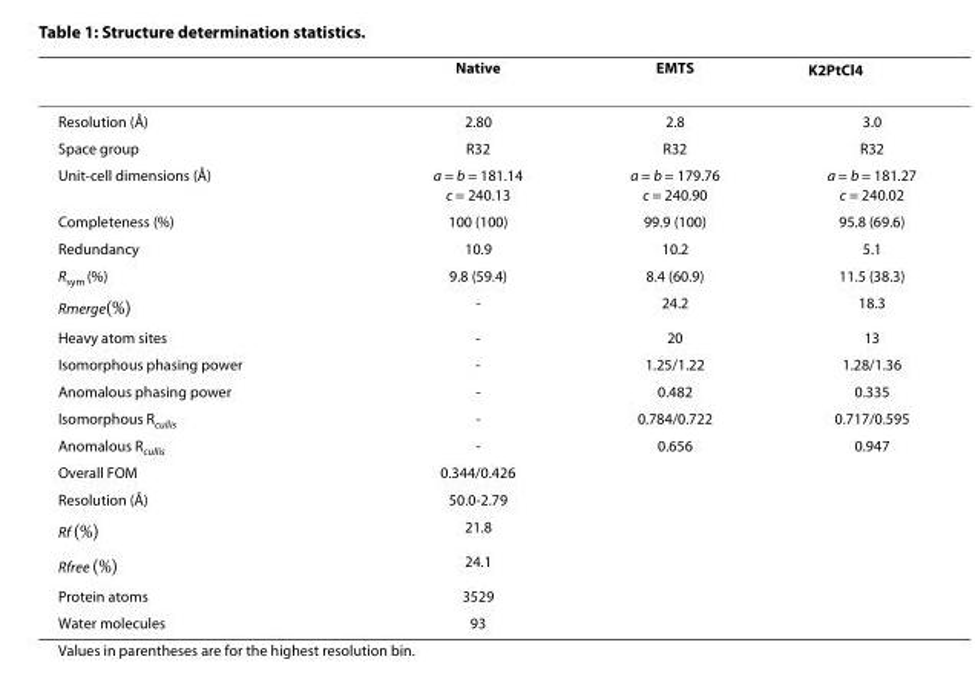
<table><thead><tr><td></td><td>Native</td><td>EMTS</td><td>K<sub>2</sub>PtCl<sub>4</sub></td></tr></thead><tbody><tr><td>Resolution (Å)</td><td>2.80</td><td>2.8</td><td>3.0</td></tr><tr><td>Space group</td><td>R32</td><td>R32</td><td>R32</td></tr><tr><td>Unit-cell dimensions (Å)</td><td>a = b = 181.14 c = 240.13</td><td>a = b = 179.76 c = 240.90</td><td>a = b = 181.27 c = 240.02</td></tr><tr><td>Completeness (%)</td><td>100 (100)</td><td>99.9 (100)</td><td>95.8 (69.6)</td></tr><tr><td>Redundancy</td><td>10.9</td><td>10.2</td><td>5.1</td></tr><tr><td>R<sub>sym</sub> (%)</td><td>9.8 (59.4)</td><td>8.4 (60.9)</td><td>11.5 (38.3)</td></tr><tr><td>R<sub>merge</sub>(%)</td><td>-</td><td>24.2</td><td>18.3</td></tr><tr><td>Heavy atom sites</td><td>-</td><td>20</td><td>13</td></tr><tr><td>Isomorphous phasing power</td><td>-</td><td>1.25/1.22</td><td>1.28/1.36</td></tr><tr><td>Anomalous phasing power</td><td>-</td><td>0.482</td><td>0.335</td></tr><tr><td>Isomorphous R<sub>cullis</sub></td><td>-</td><td>0.784/0.722</td><td>0.717/0.595</td></tr><tr><td>Anomalous R<sub>cullis</sub></td><td>-</td><td>0.656</td><td>0.947</td></tr><tr><td>Overall FOM</td><td>0.344/0.426</td><td></td><td></td></tr><tr><td>Resolution (Å)</td><td>50.0-2.79</td><td></td><td></td></tr><tr><td>R<sub>f</sub> (%)</td><td>21.8</td><td></td><td></td></tr><tr><td>R<sub>free</sub> (%)</td><td>24.1</td><td></td><td></td></tr><tr><td>Protein atoms</td><td>3529</td><td></td><td></td></tr><tr><td>Water molecules</td><td>93</td><td></td><td></td></tr></tbody></table>